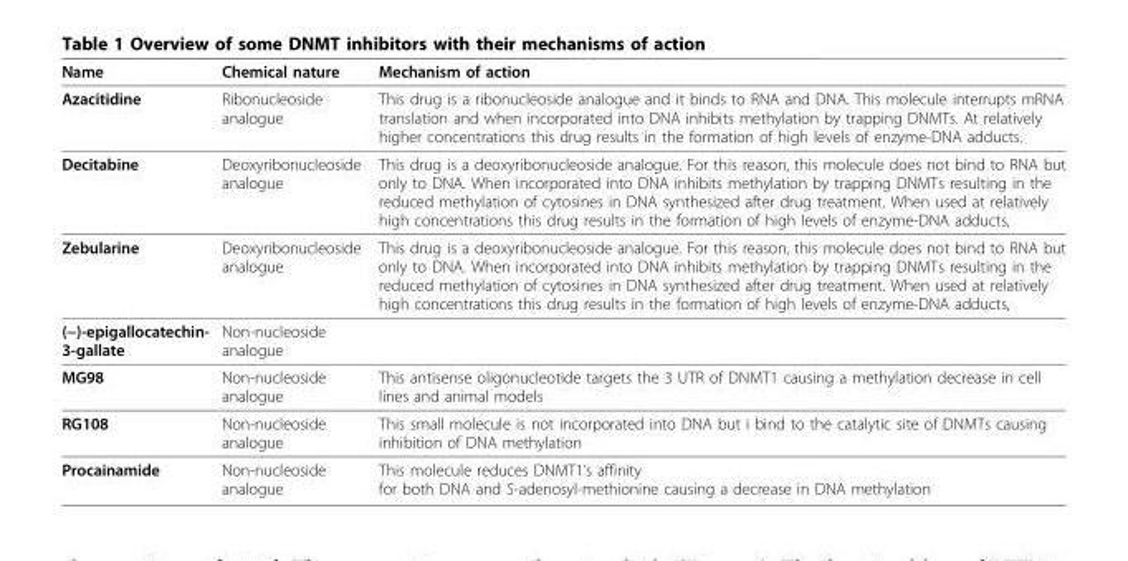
<table><thead><tr><td>Name</td><td>Chemical nature</td><td>Mechanism of action</td></tr></thead><tbody><tr><td>Azacitidine</td><td>Ribonucleoside analogue</td><td>This drug is a ribonucleoside analogue and it binds to RNA and DNA. This molecule interrupts mRNA translation and when incorporated into DNA inhibits methylation by trapping DNMTs. At relatively higher concentrations this drug results in the formation of high levels of enzyme-DNA adducts.</td></tr><tr><td>Decitabine</td><td>Deoxyribonucleoside analogue</td><td>This drug is a deoxyribonucleoside analogue. For this reason, this molecule does not bind to RNA but only to DNA. When incorporated into DNA inhibits methylation by trapping DNMTs resulting in the reduced methylation of cytosines in DNA synthesized after drug treatment. When used at relatively high concentrations this drug results in the formation of high levels of enzyme-DNA adducts,</td></tr><tr><td>Zebularine</td><td>Deoxyribonucleoside analogue</td><td>This drug is a deoxyribonucleoside analogue. For this reason, this molecule does not bind to RNA but only to DNA. When incorporated into DNA inhibits methylation by trapping DNMTs resulting in the reduced methylation of cytosines in DNA synthesized after drug treatment. When used at relatively high concentrations this drug results in the formation of high levels of enzyme-DNA adducts,</td></tr><tr><td>(−)-epigallocatechin- 3-gallate</td><td>Non-nucleoside analogue</td><td></td></tr><tr><td>MG98</td><td>Non-nucleoside analogue</td><td>This antisense oligonucleotide targets the 3 UTR of DNMT1 causing a methylation decrease in cell lines and animal models</td></tr><tr><td>RG108</td><td>Non-nucleoside analogue</td><td>This small molecule is not incorporated into DNA but i bind to the catalytic site of DNMTs causing inhibition of DNA methylation</td></tr><tr><td>Procainamide</td><td>Non-nucleoside analogue</td><td>This molecule reduces DNMT1’s affinity for both DNA and S-adenosyl-methionine causing a decrease in DNA methylation</td></tr></tbody></table>